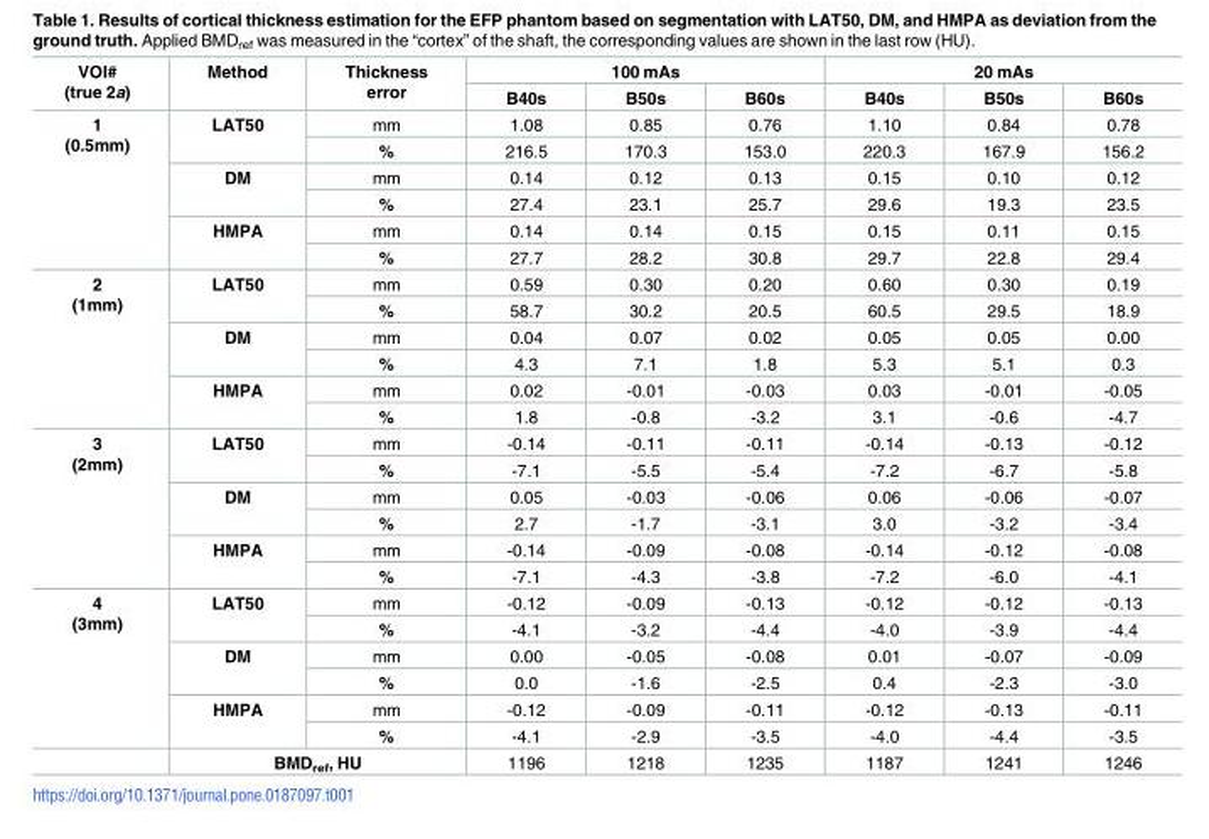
<table><thead><tr><td rowspan="2">VOI# (true 2a)</td><td rowspan="2">Method</td><td rowspan="2">Thickness error</td><td colspan="3">100 mAs</td><td colspan="3">20 mAs</td></tr><tr><td>B40s</td><td>B50s</td><td>B60s</td><td>B40s</td><td>B50s</td><td>B60s</td></tr></thead><tbody><tr><td rowspan="6">1 (0.5mm)</td><td rowspan="2">LAT50</td><td>mm</td><td>1.08</td><td>0.85</td><td>0.76</td><td>1.10</td><td>0.84</td><td>0.78</td></tr><tr><td>%</td><td>216.5</td><td>170.3</td><td>153.0</td><td>220.3</td><td>167.9</td><td>156.2</td></tr><tr><td rowspan="2">DM</td><td>mm</td><td>0.14</td><td>0.12</td><td>0.13</td><td>0.15</td><td>0.10</td><td>0.12</td></tr><tr><td>%</td><td>27.4</td><td>23.1</td><td>25.7</td><td>29.6</td><td>19.3</td><td>23.5</td></tr><tr><td rowspan="2">HMPA</td><td>mm</td><td>0.14</td><td>0.14</td><td>0.15</td><td>0.15</td><td>0.11</td><td>0.15</td></tr><tr><td>%</td><td>27.7</td><td>28.2</td><td>30.8</td><td>29.7</td><td>22.8</td><td>29.4</td></tr><tr><td rowspan="6">2 (1mm)</td><td rowspan="2">LAT50</td><td>mm</td><td>0.59</td><td>0.30</td><td>0.20</td><td>0.60</td><td>0.30</td><td>0.19</td></tr><tr><td>%</td><td>58.7</td><td>30.2</td><td>20.5</td><td>60.5</td><td>29.5</td><td>18.9</td></tr><tr><td rowspan="2">DM</td><td>mm</td><td>0.04</td><td>0.07</td><td>0.02</td><td>0.05</td><td>0.05</td><td>0.00</td></tr><tr><td>%</td><td>4.3</td><td>7.1</td><td>1.8</td><td>5.3</td><td>5.1</td><td>0.3</td></tr><tr><td rowspan="2">HMPA</td><td>mm</td><td>0.02</td><td>-0.01</td><td>-0.03</td><td>0.03</td><td>-0.01</td><td>-0.05</td></tr><tr><td>%</td><td>1.8</td><td>-0.8</td><td>-3.2</td><td>3.1</td><td>-0.6</td><td>-4.7</td></tr><tr><td rowspan="6">3 (2mm)</td><td rowspan="2">LAT50</td><td>mm</td><td>-0.14</td><td>-0.11</td><td>-0.11</td><td>-0.14</td><td>-0.13</td><td>-0.12</td></tr><tr><td>%</td><td>-7.1</td><td>-5.5</td><td>-5.4</td><td>-7.2</td><td>-6.7</td><td>-5.8</td></tr><tr><td rowspan="2">DM</td><td>mm</td><td>0.05</td><td>-0.03</td><td>-0.06</td><td>0.06</td><td>-0.06</td><td>-0.07</td></tr><tr><td>%</td><td>2.7</td><td>-1.7</td><td>-3.1</td><td>3.0</td><td>-3.2</td><td>-3.4</td></tr><tr><td rowspan="2">HMPA</td><td>mm</td><td>-0.14</td><td>-0.09</td><td>-0.08</td><td>-0.14</td><td>-0.12</td><td>-0.08</td></tr><tr><td>%</td><td>-7.1</td><td>-4.3</td><td>-3.8</td><td>-7.2</td><td>-6.0</td><td>-4.1</td></tr><tr><td rowspan="7">4 (3mm)</td><td rowspan="2">LAT50</td><td>mm</td><td>-0.12</td><td>-0.09</td><td>-0.13</td><td>-0.12</td><td>-0.12</td><td>-0.13</td></tr><tr><td>%</td><td>-4.1</td><td>-3.2</td><td>-4.4</td><td>-4.0</td><td>-3.9</td><td>-4.4</td></tr><tr><td rowspan="2">DM</td><td>mm</td><td>0.00</td><td>-0.05</td><td>-0.08</td><td>0.01</td><td>-0.07</td><td>-0.09</td></tr><tr><td>%</td><td>0.0</td><td>-1.6</td><td>-2.5</td><td>0.4</td><td>-2.3</td><td>-3.0</td></tr><tr><td rowspan="2">HMPA</td><td>mm</td><td>-0.12</td><td>-0.09</td><td>-0.11</td><td>-0.12</td><td>-0.13</td><td>-0.11</td></tr><tr><td>%</td><td>-4.1</td><td>-2.9</td><td>-3.5</td><td>-4.0</td><td>-4.4</td><td>-3.5</td></tr><tr><td colspan="2">BMDref, HU</td><td>1196</td><td>1218</td><td>1235</td><td>1187</td><td>1241</td><td>1246</td></tr></tbody></table>